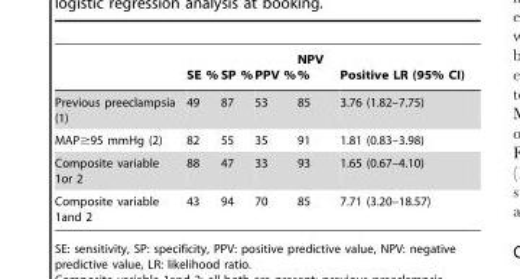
<table><thead><tr><td></td><td>SE %</td><td>SP %</td><td>PPV %</td><td>NPV %</td><td>Positive LR (95% CI)</td></tr></thead><tbody><tr><td>Previous preeclampsia (1)</td><td>49</td><td>87</td><td>53</td><td>85</td><td>3.76 (1.82–7.75)</td></tr><tr><td>MAP≥95 mmHg (2)</td><td>82</td><td>55</td><td>35</td><td>91</td><td>1.81 (0.83–3.98)</td></tr><tr><td>Composite variable 1or 2</td><td>88</td><td>47</td><td>33</td><td>93</td><td>1.65 (0.67–4.10)</td></tr><tr><td>Composite variable 1and 2</td><td>43</td><td>94</td><td>70</td><td>85</td><td>7.71 (3.20–18.57)</td></tr></tbody></table>